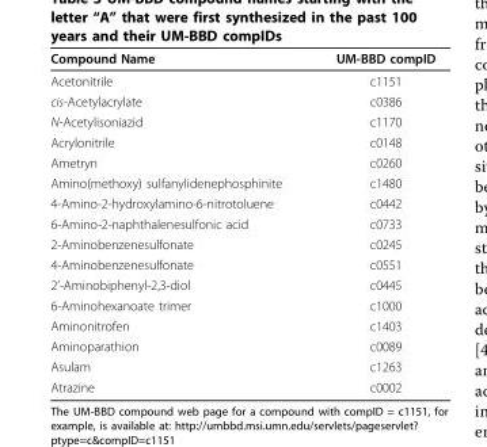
<table><thead><tr><td>Compound Name</td><td>UM-BBD compID</td></tr></thead><tbody><tr><td>Acetonitrile</td><td>c1151</td></tr><tr><td>cis-Acetylacrylate</td><td>c0386</td></tr><tr><td>N-Acetylisoniazid</td><td>c1170</td></tr><tr><td>Acrylonitrile</td><td>c0148</td></tr><tr><td>Ametryn</td><td>c0260</td></tr><tr><td>Amino(methoxy) sulfanylidenephosphinite</td><td>c1480</td></tr><tr><td>4-Amino-2-hydroxylamino-6-nitrotoluene</td><td>c0442</td></tr><tr><td>6-Amino-2-naphthalenesulfonic acid</td><td>c0733</td></tr><tr><td>2-Aminobenzenesulfonate</td><td>c0245</td></tr><tr><td>4-Aminobenzenesulfonate</td><td>c0551</td></tr><tr><td>2’-Aminobiphenyl-2,3-diol</td><td>c0445</td></tr><tr><td>6-Aminohexanoate trimer</td><td>c1000</td></tr><tr><td>Aminonitrofen</td><td>c1403</td></tr><tr><td>Aminoparathion</td><td>c0089</td></tr><tr><td>Asulam</td><td>c1263</td></tr><tr><td>Atrazine</td><td>c0002</td></tr></tbody></table>